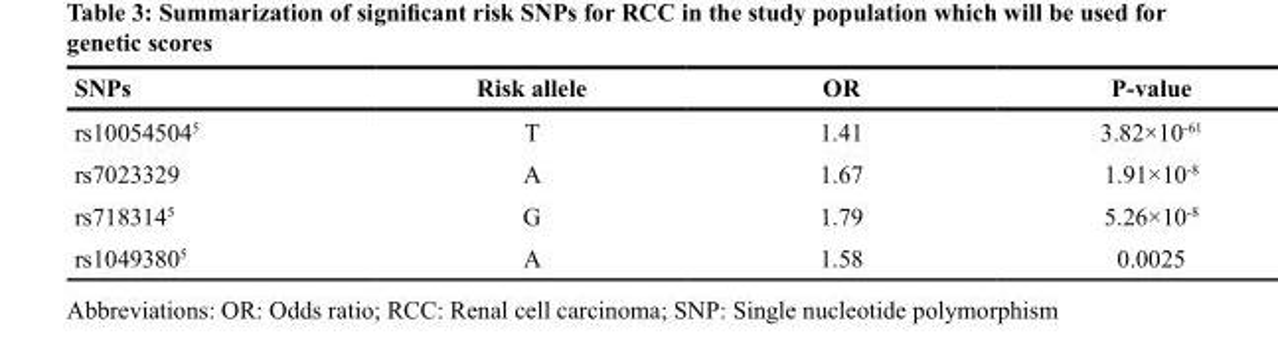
<table><thead><tr><td>SNPs</td><td>Risk allele</td><td>OR</td><td>P-value</td></tr></thead><tbody><tr><td>rs10054504<sup>5</sup></td><td>T</td><td>1.41</td><td>3.82×10<sup>-61</sup></td></tr><tr><td>rs7023329</td><td>A</td><td>1.67</td><td>1.91×10<sup>-8</sup></td></tr><tr><td>rs718314<sup>5</sup></td><td>G</td><td>1.79</td><td>5.26×10<sup>-8</sup></td></tr><tr><td>rs1049380<sup>5</sup></td><td>A</td><td>1.58</td><td>0.0025</td></tr></tbody></table>